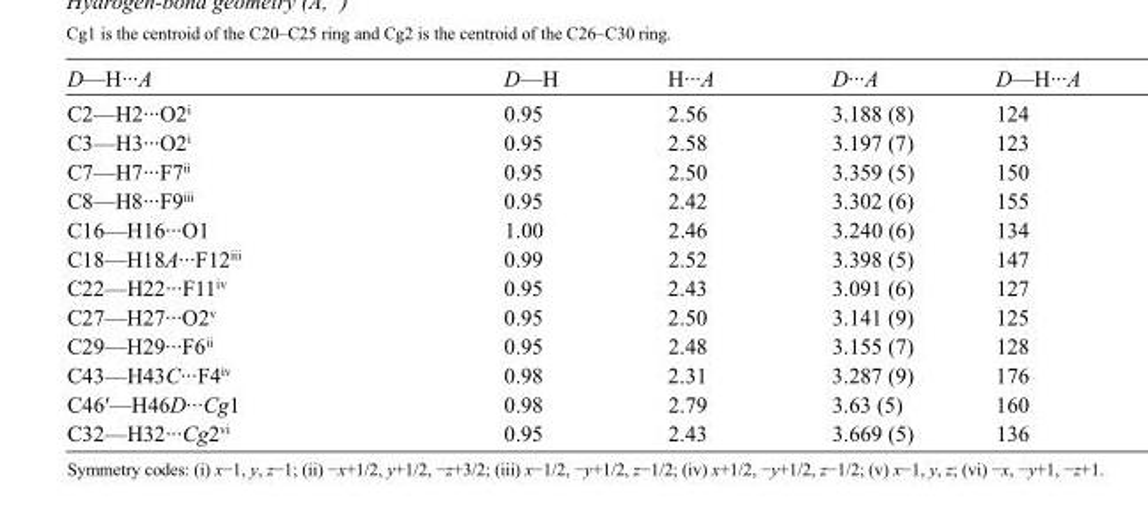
<table><tbody><tr><td>D—H···A</td><td>D—H</td><td>H···A</td><td>D···A</td><td>D—H···A</td></tr><tr><td>C2—H2···O2<sup>i</sup></td><td>0.95</td><td>2.56</td><td>3.188 (8)</td><td>124</td></tr><tr><td>C3—H3···O2<sup>i</sup></td><td>0.95</td><td>2.58</td><td>3.197 (7)</td><td>123</td></tr><tr><td>C7—H7···F7<sup>ii</sup></td><td>0.95</td><td>2.50</td><td>3.359 (5)</td><td>150</td></tr><tr><td>C8—H8···F9<sup>iii</sup></td><td>0.95</td><td>2.42</td><td>3.302 (6)</td><td>155</td></tr><tr><td>C16—H16···O1</td><td>1.00</td><td>2.46</td><td>3.240 (6)</td><td>134</td></tr><tr><td>C18—H18A···F12<sup>iii</sup></td><td>0.99</td><td>2.52</td><td>3.398 (5)</td><td>147</td></tr><tr><td>C22—H22···F11<sup>iv</sup></td><td>0.95</td><td>2.43</td><td>3.091 (6)</td><td>127</td></tr><tr><td>C27—H27···O2<sup>v</sup></td><td>0.95</td><td>2.50</td><td>3.141 (9)</td><td>125</td></tr><tr><td>C29—H29···F6<sup>ii</sup></td><td>0.95</td><td>2.48</td><td>3.155 (7)</td><td>128</td></tr><tr><td>C43—H43C···F4<sup>iv</sup></td><td>0.98</td><td>2.31</td><td>3.287 (9)</td><td>176</td></tr><tr><td>C46′—H46D···Cg1</td><td>0.98</td><td>2.79</td><td>3.63 (5)</td><td>160</td></tr><tr><td>C32—H32···Cg2<sup>vi</sup></td><td>0.95</td><td>2.43</td><td>3.669 (5)</td><td>136</td></tr></tbody></table>